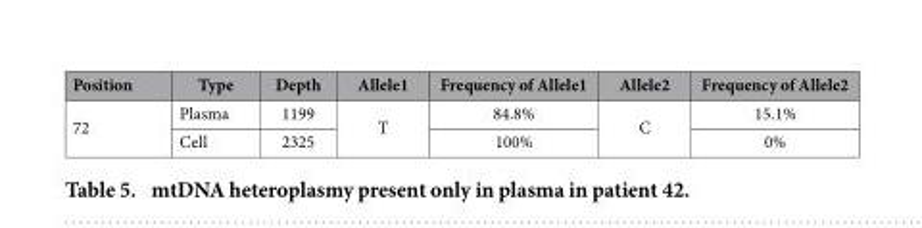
<table><thead><tr><td>Position</td><td>Type</td><td>Depth</td><td>Allele1</td><td>Frequency of Allele1</td><td>Allele2</td><td>Frequency of Allele2</td></tr></thead><tbody><tr><td rowspan="2">72</td><td>Plasma</td><td>1199</td><td rowspan="2">T</td><td>84.8%</td><td rowspan="2">C</td><td>15.1%</td></tr><tr><td>Cell</td><td>2325</td><td>100%</td><td>0%</td></tr></tbody></table>